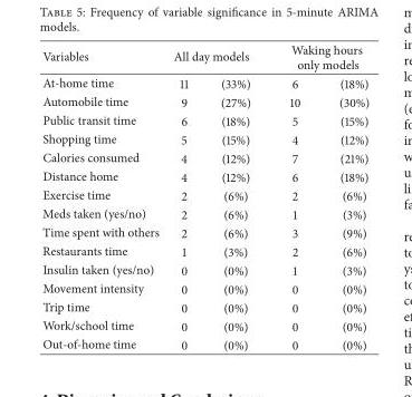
<table><thead><tr><td rowspan="2">Variables At-home time</td><td colspan="2">All day models</td><td colspan="2">Waking hours only models</td></tr><tr><td>11</td><td>(33%)</td><td>6</td><td>(18%)</td></tr></thead><tbody><tr><td>Automobile time</td><td>9</td><td>(27%)</td><td>10</td><td>(30%)</td></tr><tr><td>Public transit time</td><td>6</td><td>(18%)</td><td>5</td><td>(15%)</td></tr><tr><td>Shopping time</td><td>5</td><td>(15%)</td><td>4</td><td>(12%)</td></tr><tr><td>Calories consumed</td><td>4</td><td>(12%)</td><td>7</td><td>(21%)</td></tr><tr><td>Distance home</td><td>4</td><td>(12%)</td><td>6</td><td>(18%)</td></tr><tr><td>Exercise time</td><td>2</td><td>(6%)</td><td>2</td><td>(6%)</td></tr><tr><td>Meds taken (yes/no)</td><td>2</td><td>(6%)</td><td>1</td><td>(3%)</td></tr><tr><td>Time spent with others</td><td>2</td><td>(6%)</td><td>3</td><td>(9%)</td></tr><tr><td>Restaurants time</td><td>1</td><td>(3%)</td><td>2</td><td>(6%)</td></tr><tr><td>Insulin taken (yes/no)</td><td>0</td><td>(0%)</td><td>1</td><td>(3%)</td></tr><tr><td>Movement intensity</td><td>0</td><td>(0%)</td><td>0</td><td>(0%)</td></tr><tr><td>Trip time</td><td>0</td><td>(0%)</td><td>0</td><td>(0%)</td></tr><tr><td>Work/school time</td><td>0</td><td>(0%)</td><td>0</td><td>(0%)</td></tr><tr><td>Out-of-home time</td><td>0</td><td>(0%)</td><td>0</td><td>(0%)</td></tr></tbody></table>